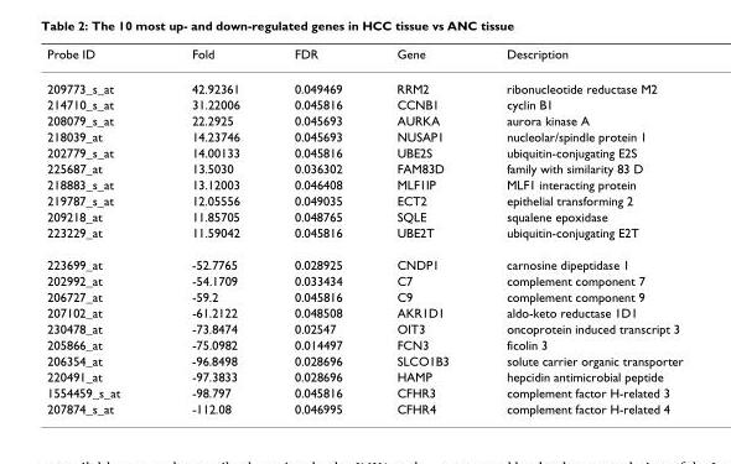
<table><thead><tr><td>Probe ID</td><td>Fold</td><td>FDR</td><td>Gene</td><td>Description</td></tr></thead><tbody><tr><td>209773_s_at</td><td>42.92361</td><td>0.049469</td><td>RRM2</td><td>ribonucleotide reductase M2</td></tr><tr><td>214710_s_at</td><td>31.22006</td><td>0.045816</td><td>CCNB1</td><td>cyclin B1</td></tr><tr><td>208079_s_at</td><td>22.2925</td><td>0.045693</td><td>AURKA</td><td>aurora kinase A</td></tr><tr><td>218039_at</td><td>14.23746</td><td>0.045693</td><td>NUSAP1</td><td>nucleolar/spindle protein 1</td></tr><tr><td>202779_s_at</td><td>14.00133</td><td>0.045816</td><td>UBE2S</td><td>ubiquitin-conjugating E2S</td></tr><tr><td>225687_at</td><td>13.5030</td><td>0.036302</td><td>FAM83D</td><td>family with similarity 83 D</td></tr><tr><td>218883_s_at</td><td>13.12003</td><td>0.046408</td><td>MLF1IP</td><td>MLF1 interacting protein</td></tr><tr><td>219787_s_at</td><td>12.05556</td><td>0.049035</td><td>ECT2</td><td>epithelial transforming 2</td></tr><tr><td>209218_at</td><td>11.85705</td><td>0.048765</td><td>SQLE</td><td>squalene epoxidase</td></tr><tr><td>223229_at</td><td>11.59042</td><td>0.045816</td><td>UBE2T</td><td>ubiquitin-conjugating E2T</td></tr><tr><td>223699_at</td><td>-52.7765</td><td>0.028925</td><td>CNDP1</td><td>carnosine dipeptidase 1</td></tr><tr><td>202992_at</td><td>-54.1709</td><td>0.033434</td><td>C7</td><td>complement component 7</td></tr><tr><td>206727_at</td><td>-59.2</td><td>0.045816</td><td>C9</td><td>complement component 9</td></tr><tr><td>207102_at</td><td>-61.2122</td><td>0.048508</td><td>AKR1D1</td><td>aldo-keto reductase 1D1</td></tr><tr><td>230478_at</td><td>-73.8474</td><td>0.02547</td><td>OIT3</td><td>oncoprotein induced transcript 3</td></tr><tr><td>205866_at</td><td>-75.0982</td><td>0.014497</td><td>FCN3</td><td>ficolin 3</td></tr><tr><td>206354_at</td><td>-96.8498</td><td>0.028696</td><td>SLCO1B3</td><td>solute carrier organic transporter</td></tr><tr><td>220491_at</td><td>-97.3833</td><td>0.028696</td><td>HAMP</td><td>hepcidin antimicrobial peptide</td></tr><tr><td>1554459_s_at</td><td>-98.797</td><td>0.045816</td><td>CFHR3</td><td>complement factor H-related 3</td></tr><tr><td>207874_s_at</td><td>-112.08</td><td>0.046995</td><td>CFHR4</td><td>complement factor H-related 4</td></tr></tbody></table>